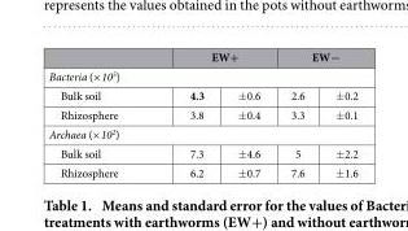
<table><thead><tr><td></td><td colspan="2">EW+</td><td colspan="2">EW−</td></tr><tr><td colspan="5">Bacteria (× 10<sup>5</sup>)</td></tr><tr><td>Bulk soil</td><td>4.3</td><td>±0.6</td><td>2.6</td><td>±0.2</td></tr></thead><tbody><tr><td>Rhizosphere</td><td>3.8</td><td>±0.4</td><td>3.3</td><td>±0.1</td></tr><tr><td colspan="5">Archaea (× 10<sup>2</sup>)</td></tr><tr><td>Bulk soil</td><td>7.3</td><td>±4.6</td><td>5</td><td>±2.2</td></tr><tr><td>Rhizosphere</td><td>6.2</td><td>±0.7</td><td>7.6</td><td>±1.6</td></tr></tbody></table>